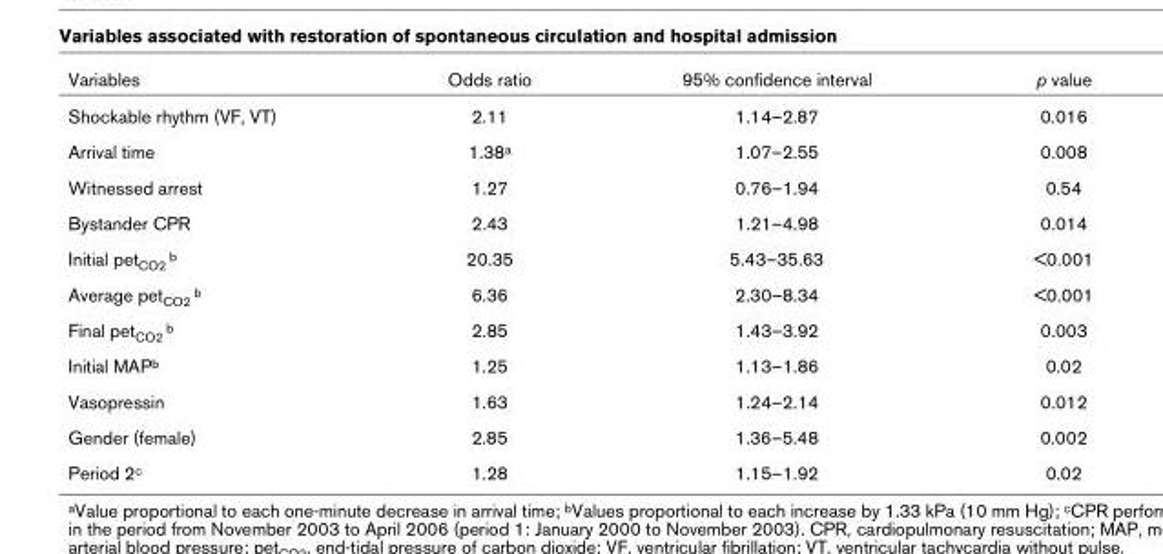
<table><thead><tr><td>Variables</td><td>Odds ratio</td><td>95% confidence interval</td><td>p value</td></tr></thead><tbody><tr><td>Shockable rhythm (VF, VT)</td><td>2.11</td><td>1.14–2.87</td><td>0.016</td></tr><tr><td>Arrival time</td><td>1.38<sup>a</sup></td><td>1.07–2.55</td><td>0.008</td></tr><tr><td>Witnessed arrest</td><td>1.27</td><td>0.76–1.94</td><td>0.54</td></tr><tr><td>Bystander CPR</td><td>2.43</td><td>1.21–4.98</td><td>0.014</td></tr><tr><td>Initial pet<sub>CO2</sub> <sup>b</sup></td><td>20.35</td><td>5.43–35.63</td><td>&lt;0.001</td></tr><tr><td>Average pet<sub>CO2</sub> <sup>b</sup></td><td>6.36</td><td>2.30–8.34</td><td>&lt;0.001</td></tr><tr><td>Final pet<sub>CO2</sub> <sup>b</sup></td><td>2.85</td><td>1.43–3.92</td><td>0.003</td></tr><tr><td>Initial MAP<sup>b</sup></td><td>1.25</td><td>1.13–1.86</td><td>0.02</td></tr><tr><td>Vasopressin</td><td>1.63</td><td>1.24–2.14</td><td>0.012</td></tr><tr><td>Gender (female)</td><td>2.85</td><td>1.36–5.48</td><td>0.002</td></tr><tr><td>Period 2<sup>c</sup></td><td>1.28</td><td>1.15–1.92</td><td>0.02</td></tr></tbody></table>